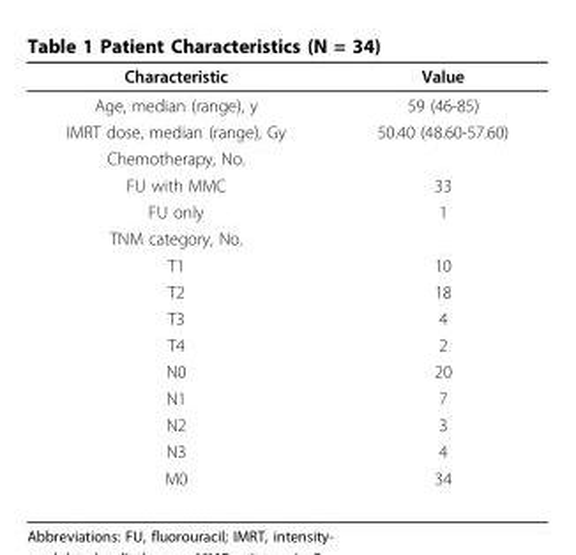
<table><thead><tr><td>Characteristic</td><td>Value</td></tr></thead><tbody><tr><td>Age, median (range), y</td><td>59 (46-85)</td></tr><tr><td>IMRT dose, median (range), Gy</td><td>50.40 (48.60-57.60)</td></tr><tr><td colspan="2">Chemotherapy, No.</td></tr><tr><td>FU with MMC</td><td>33</td></tr><tr><td>FU only</td><td>1</td></tr><tr><td colspan="2">TNM category, No.</td></tr><tr><td>T1</td><td>10</td></tr><tr><td>T2</td><td>18</td></tr><tr><td>T3</td><td>4</td></tr><tr><td>T4</td><td>2</td></tr><tr><td>N0</td><td>20</td></tr><tr><td>N1</td><td>7</td></tr><tr><td>N2</td><td>3</td></tr><tr><td>N3</td><td>4</td></tr><tr><td>M0</td><td>34</td></tr></tbody></table>